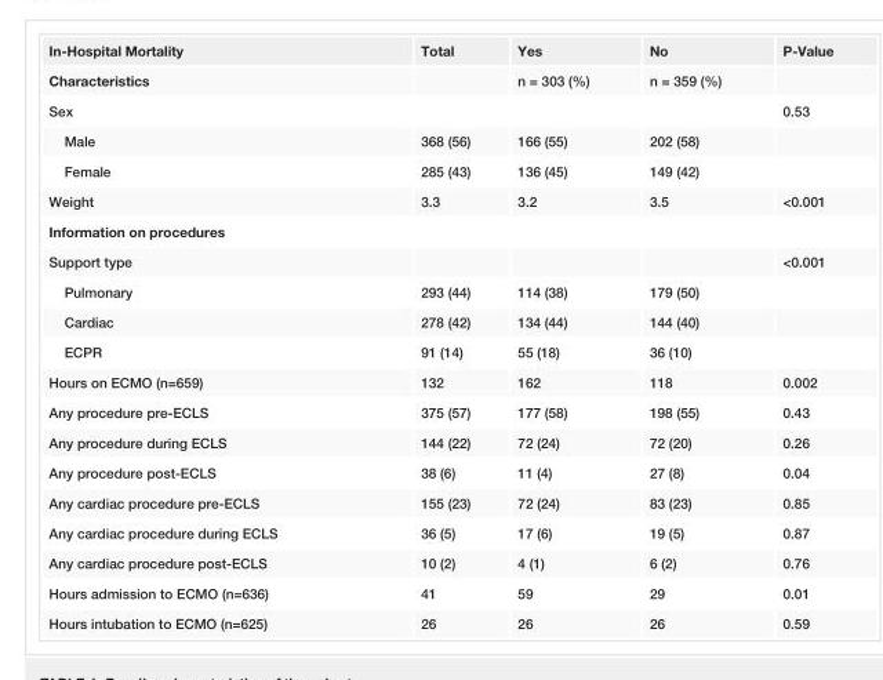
<table><tbody><tr><td>In-Hospital Mortality</td><td>Total</td><td>Yes</td><td>No</td><td>P-Value</td></tr><tr><td>Characteristics</td><td></td><td>n = 303 (%)</td><td>n = 359 (%)</td><td></td></tr><tr><td>Sex</td><td></td><td></td><td></td><td>0.53</td></tr><tr><td>Male</td><td>368 (56)</td><td>166 (55)</td><td>202 (58)</td><td></td></tr><tr><td>Female</td><td>285 (43)</td><td>136 (45)</td><td>149 (42)</td><td></td></tr><tr><td>Weight</td><td>3.3</td><td>3.2</td><td>3.5</td><td>&lt;0.001</td></tr><tr><td colspan="5">Information on procedures</td></tr><tr><td>Support type</td><td></td><td></td><td></td><td>&lt;0.001</td></tr><tr><td>Pulmonary</td><td>293 (44)</td><td>114 (38)</td><td>179 (50)</td><td></td></tr><tr><td>Cardiac</td><td>278 (42)</td><td>134 (44)</td><td>144 (40)</td><td></td></tr><tr><td>ECPR</td><td>91 (14)</td><td>55 (18)</td><td>36 (10)</td><td></td></tr><tr><td>Hours on ECMO (n=659)</td><td>132</td><td>162</td><td>118</td><td>0.002</td></tr><tr><td>Any procedure pre-ECLS</td><td>375 (57)</td><td>177 (58)</td><td>198 (55)</td><td>0.43</td></tr><tr><td>Any procedure during ECLS</td><td>144 (22)</td><td>72 (24)</td><td>72 (20)</td><td>0.26</td></tr><tr><td>Any procedure post-ECLS</td><td>38 (6)</td><td>11 (4)</td><td>27 (8)</td><td>0.04</td></tr><tr><td>Any cardiac procedure pre-ECLS</td><td>155 (23)</td><td>72 (24)</td><td>83 (23)</td><td>0.85</td></tr><tr><td>Any cardiac procedure during ECLS</td><td>36 (5)</td><td>17 (6)</td><td>19 (5)</td><td>0.87</td></tr><tr><td>Any cardiac procedure post-ECLS</td><td>10 (2)</td><td>4 (1)</td><td>6 (2)</td><td>0.76</td></tr><tr><td>Hours admission to ECMO (n=636)</td><td>41</td><td>59</td><td>29</td><td>0.01</td></tr><tr><td>Hours intubation to ECMO (n=625)</td><td>26</td><td>26</td><td>26</td><td>0.59</td></tr></tbody></table>